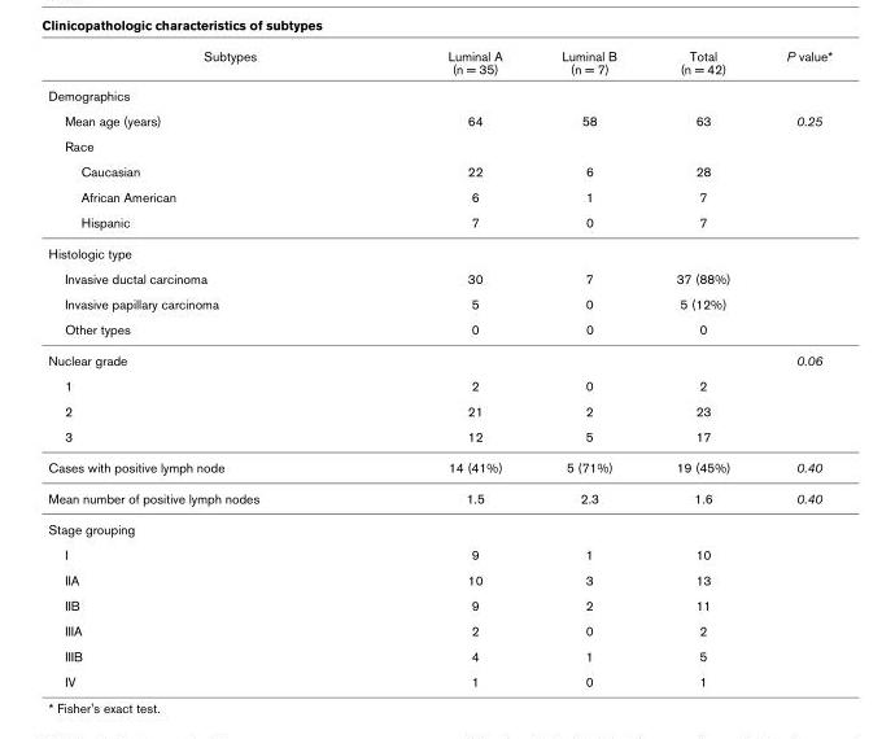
<table><thead><tr><td>Subtypes</td><td>Luminal A (n = 35)</td><td>Luminal B (n = 7)</td><td>Total (n = 42)</td><td>P value*</td></tr></thead><tbody><tr><td colspan="5">Demographics</td></tr><tr><td>Mean age (years)</td><td>64</td><td>58</td><td>63</td><td>0.25</td></tr><tr><td colspan="5">Race</td></tr><tr><td>Caucasian</td><td>22</td><td>6</td><td>28</td><td></td></tr><tr><td>African American</td><td>6</td><td>1</td><td>7</td><td></td></tr><tr><td>Hispanic</td><td>7</td><td>0</td><td>7</td><td></td></tr><tr><td colspan="5">Histologic type</td></tr><tr><td>Invasive ductal carcinoma</td><td>30</td><td>7</td><td>37 (88%)</td><td></td></tr><tr><td>Invasive papillary carcinoma</td><td>5</td><td>0</td><td>5 (12%)</td><td></td></tr><tr><td>Other types</td><td>0</td><td>0</td><td>0</td><td></td></tr><tr><td>Nuclear grade</td><td></td><td></td><td></td><td>0.06</td></tr><tr><td>1</td><td>2</td><td>0</td><td>2</td><td></td></tr><tr><td>2</td><td>21</td><td>2</td><td>23</td><td></td></tr><tr><td>3</td><td>12</td><td>5</td><td>17</td><td></td></tr><tr><td>Cases with positive lymph node</td><td>14 (41%)</td><td>5 (71%)</td><td>19 (45%)</td><td>0.40</td></tr><tr><td>Mean number of positive lymph nodes</td><td>1.5</td><td>2.3</td><td>1.6</td><td>0.40</td></tr><tr><td colspan="5">Stage grouping</td></tr><tr><td>I</td><td>9</td><td>1</td><td>10</td><td></td></tr><tr><td>IIA</td><td>10</td><td>3</td><td>13</td><td></td></tr><tr><td>IIB</td><td>9</td><td>2</td><td>11</td><td></td></tr><tr><td>IIIA</td><td>2</td><td>0</td><td>2</td><td></td></tr><tr><td>IIIB</td><td>4</td><td>1</td><td>5</td><td></td></tr><tr><td>IV</td><td>1</td><td>0</td><td>1</td><td></td></tr></tbody></table>